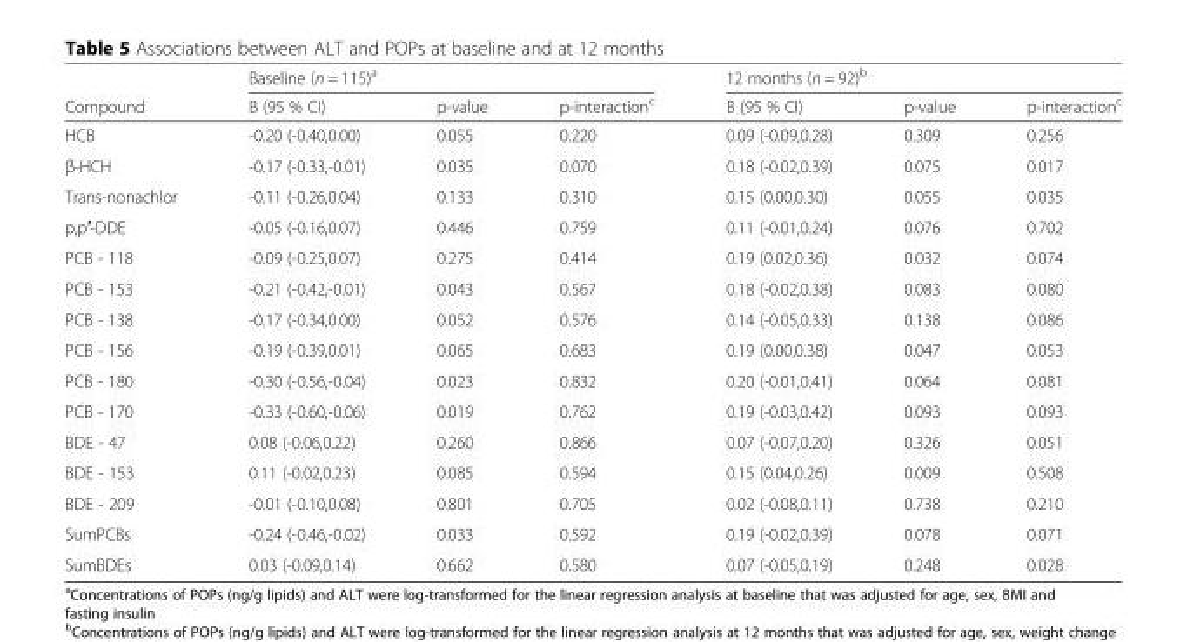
<table><thead><tr><td rowspan="2">Compound</td><td colspan="3">Baseline (n = 115)<sup>a</sup></td><td colspan="3">12 months (n = 92)<sup>b</sup></td></tr><tr><td>B (95 % CI)</td><td>p-value</td><td>p-interaction<sup>c</sup></td><td>B (95 % CI)</td><td>p-value</td><td>p-interaction<sup>c</sup></td></tr></thead><tbody><tr><td>HCB</td><td>-0.20 (-0.40,0.00)</td><td>0.055</td><td>0.220</td><td>0.09 (-0.09,0.28)</td><td>0.309</td><td>0.256</td></tr><tr><td>β-HCH</td><td>-0.17 (-0.33,-0.01)</td><td>0.035</td><td>0.070</td><td>0.18 (-0.02,0.39)</td><td>0.075</td><td>0.017</td></tr><tr><td>Trans-nonachlor</td><td>-0.11 (-0.26,0.04)</td><td>0.133</td><td>0.310</td><td>0.15 (0.00,0.30)</td><td>0.055</td><td>0.035</td></tr><tr><td>p,p′-DDE</td><td>-0.05 (-0.16,0.07)</td><td>0.446</td><td>0.759</td><td>0.11 (-0.01,0.24)</td><td>0.076</td><td>0.702</td></tr><tr><td>PCB - 118</td><td>-0.09 (-0.25,0.07)</td><td>0.275</td><td>0.414</td><td>0.19 (0.02,0.36)</td><td>0.032</td><td>0.074</td></tr><tr><td>PCB - 153</td><td>-0.21 (-0.42,-0.01)</td><td>0.043</td><td>0.567</td><td>0.18 (-0.02,0.38)</td><td>0.083</td><td>0.080</td></tr><tr><td>PCB - 138</td><td>-0.17 (-0.34,0.00)</td><td>0.052</td><td>0.576</td><td>0.14 (-0.05,0.33)</td><td>0.138</td><td>0.086</td></tr><tr><td>PCB - 156</td><td>-0.19 (-0.39,0.01)</td><td>0.065</td><td>0.683</td><td>0.19 (0.00,0.38)</td><td>0.047</td><td>0.053</td></tr><tr><td>PCB - 180</td><td>-0.30 (-0.56,-0.04)</td><td>0.023</td><td>0.832</td><td>0.20 (-0.01,0.41)</td><td>0.064</td><td>0.081</td></tr><tr><td>PCB - 170</td><td>-0.33 (-0.60,-0.06)</td><td>0.019</td><td>0.762</td><td>0.19 (-0.03,0.42)</td><td>0.093</td><td>0.093</td></tr><tr><td>BDE - 47</td><td>0.08 (-0.06,0.22)</td><td>0.260</td><td>0.866</td><td>0.07 (-0.07,0.20)</td><td>0.326</td><td>0.051</td></tr><tr><td>BDE - 153</td><td>0.11 (-0.02,0.23)</td><td>0.085</td><td>0.594</td><td>0.15 (0.04,0.26)</td><td>0.009</td><td>0.508</td></tr><tr><td>BDE - 209</td><td>-0.01 (-0.10,0.08)</td><td>0.801</td><td>0.705</td><td>0.02 (-0.08,0.11)</td><td>0.738</td><td>0.210</td></tr><tr><td>SumPCBs</td><td>-0.24 (-0.46,-0.02)</td><td>0.033</td><td>0.592</td><td>0.19 (-0.02,0.39)</td><td>0.078</td><td>0.071</td></tr><tr><td>SumBDEs</td><td>0.03 (-0.09,0.14)</td><td>0.662</td><td>0.580</td><td>0.07 (-0.05,0.19)</td><td>0.248</td><td>0.028</td></tr></tbody></table>